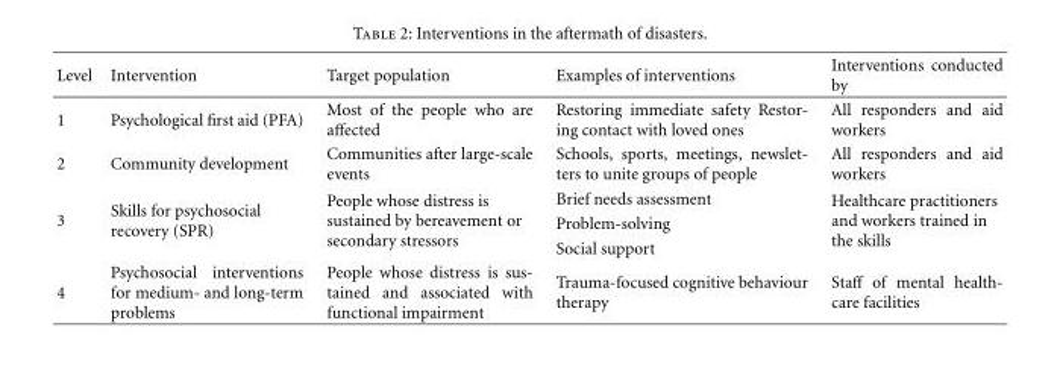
<table><thead><tr><td>Level</td><td>Intervention</td><td>Target population</td><td>Examples of interventions</td><td>Interventions conducted by</td></tr></thead><tbody><tr><td>1</td><td>Psychological first aid (PFA)</td><td>Most of the people who are affected</td><td>Restoring immediate safety Restor- ing contact with loved ones</td><td>All responders and aid workers</td></tr><tr><td>2</td><td>Community development</td><td>Communities after large-scale events</td><td>Schools, sports, meetings, newslet- ters to unite groups of people</td><td>All responders and aid workers</td></tr><tr><td rowspan="3">3</td><td rowspan="3">Skills for psychosocial recovery (SPR)</td><td rowspan="3">People whose distress is sustained by bereavement or secondary stressors</td><td>Brief needs assessment</td><td rowspan="3">Healthcare practitioners and workers trained in the skills</td></tr><tr><td>Problem-solving</td></tr><tr><td>Social support</td></tr><tr><td>4</td><td>Psychosocial interventions for medium- and long-term problems</td><td>People whose distress is sus- tained and associated with functional impairment</td><td>Trauma-focused cognitive behaviour therapy</td><td>Staff of mental health- care facilities</td></tr></tbody></table>